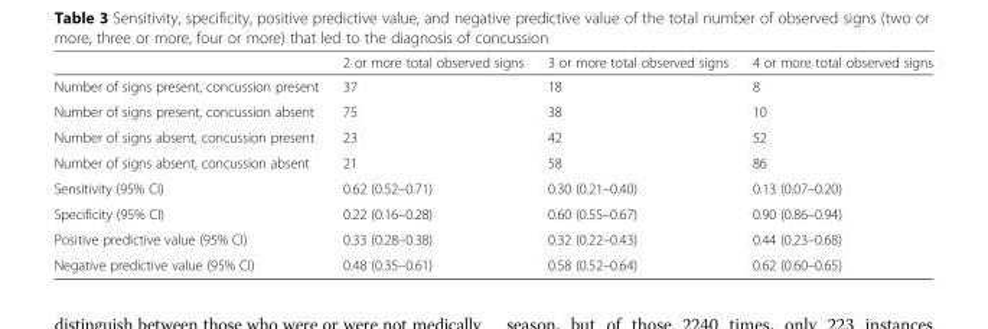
<table><thead><tr><td></td><td>2 or more total observed signs</td><td>3 or more total observed signs</td><td>4 or more total observed signs</td></tr></thead><tbody><tr><td>Number of signs present, concussion present</td><td>37</td><td>18</td><td>8</td></tr><tr><td>Number of signs present, concussion absent</td><td>75</td><td>38</td><td>10</td></tr><tr><td>Number of signs absent, concussion present</td><td>23</td><td>42</td><td>52</td></tr><tr><td>Number of signs absent, concussion absent</td><td>21</td><td>58</td><td>86</td></tr><tr><td>Sensitivity (95% CI)</td><td>0.62 (0.52–0.71)</td><td>0.30 (0.21–0.40)</td><td>0.13 (0.07–0.20)</td></tr><tr><td>Specificity (95% CI)</td><td>0.22 (0.16–0.28)</td><td>0.60 (0.55–0.67)</td><td>0.90 (0.86–0.94)</td></tr><tr><td>Positive predictive value (95% CI)</td><td>0.33 (0.28–0.38)</td><td>0.32 (0.22–0.43)</td><td>0.44 (0.23–0.68)</td></tr><tr><td>Negative predictive value (95% CI)</td><td>0.48 (0.35–0.61)</td><td>0.58 (0.52–0.64)</td><td>0.62 (0.60–0.65)</td></tr></tbody></table>